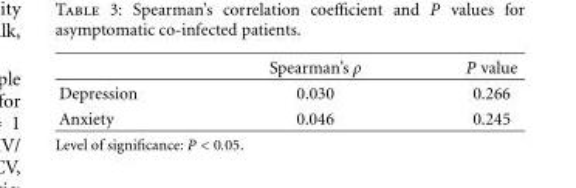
<table><thead><tr><td></td><td>Spearman’s ρ</td><td>P value</td></tr></thead><tbody><tr><td>Depression</td><td>0.030</td><td>0.266</td></tr><tr><td>Anxiety</td><td>0.046</td><td>0.245</td></tr></tbody></table>